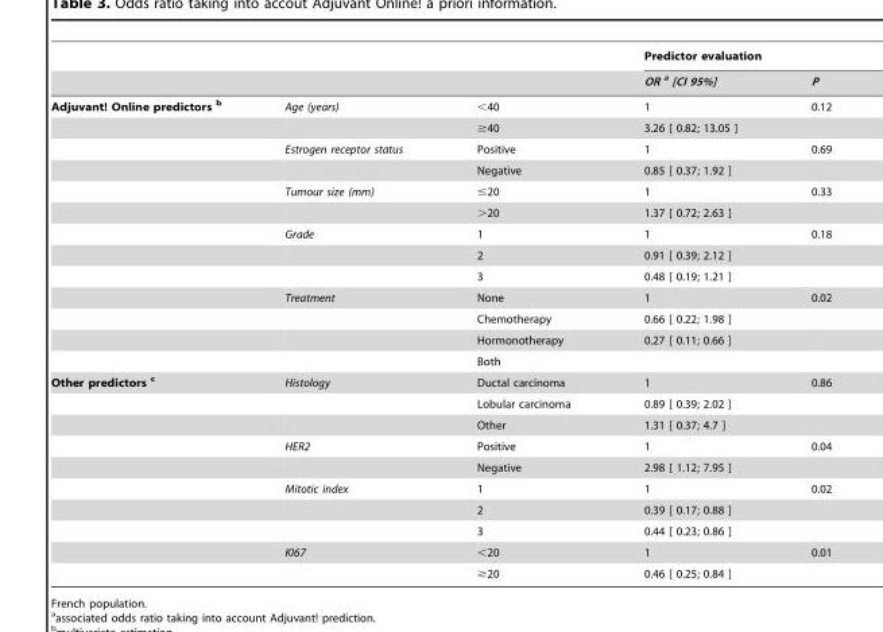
<table><thead><tr><td rowspan="2"></td><td rowspan="2"></td><td rowspan="2"></td><td colspan="2">Predictor evaluation</td></tr><tr><td>OR a [CI 95%]</td><td>P</td></tr></thead><tbody><tr><td rowspan="13">Adjuvant! Online predictors b</td><td>Age (years)</td><td>&lt;40</td><td>1</td><td>0.12</td></tr><tr><td></td><td>≥40</td><td>3.26 [ 0.82; 13.05 ]</td><td></td></tr><tr><td>Estrogen receptor status</td><td>Positive</td><td>1</td><td>0.69</td></tr><tr><td></td><td>Negative</td><td>0.85 [ 0.37; 1.92 ]</td><td></td></tr><tr><td>Tumour size (mm)</td><td>≤20</td><td>1</td><td>0.33</td></tr><tr><td></td><td>&gt;20</td><td>1.37 [ 0.72; 2.63 ]</td><td></td></tr><tr><td>Grade</td><td>1</td><td>1</td><td>0.18</td></tr><tr><td></td><td>2</td><td>0.91 [ 0.39; 2.12 ]</td><td></td></tr><tr><td></td><td>3</td><td>0.48 [ 0.19; 1.21 ]</td><td></td></tr><tr><td>Treatment</td><td>None</td><td>1</td><td>0.02</td></tr><tr><td></td><td>Chemotherapy</td><td>0.66 [ 0.22; 1.98 ]</td><td></td></tr><tr><td></td><td>Hormonotherapy</td><td>0.27 [ 0.11; 0.66 ]</td><td></td></tr><tr><td></td><td>Both</td><td></td><td></td></tr><tr><td rowspan="10">Other predictors c</td><td>Histology</td><td>Ductal carcinoma</td><td>1</td><td>0.86</td></tr><tr><td></td><td>Lobular carcinoma</td><td>0.89 [ 0.39; 2.02 ]</td><td></td></tr><tr><td></td><td>Other</td><td>1.31 [ 0.37; 4.7 ]</td><td></td></tr><tr><td>HER2</td><td>Positive</td><td>1</td><td>0.04</td></tr><tr><td></td><td>Negative</td><td>2.98 [ 1.12; 7.95 ]</td><td></td></tr><tr><td>Mitotic index</td><td>1</td><td>1</td><td>0.02</td></tr><tr><td></td><td>2</td><td>0.39 [ 0.17; 0.88 ]</td><td></td></tr><tr><td></td><td>3</td><td>0.44 [ 0.23; 0.86 ]</td><td></td></tr><tr><td>KI67</td><td>&lt;20</td><td>1</td><td>0.01</td></tr><tr><td></td><td>≥20</td><td>0.46 [ 0.25; 0.84 ]</td><td></td></tr></tbody></table>